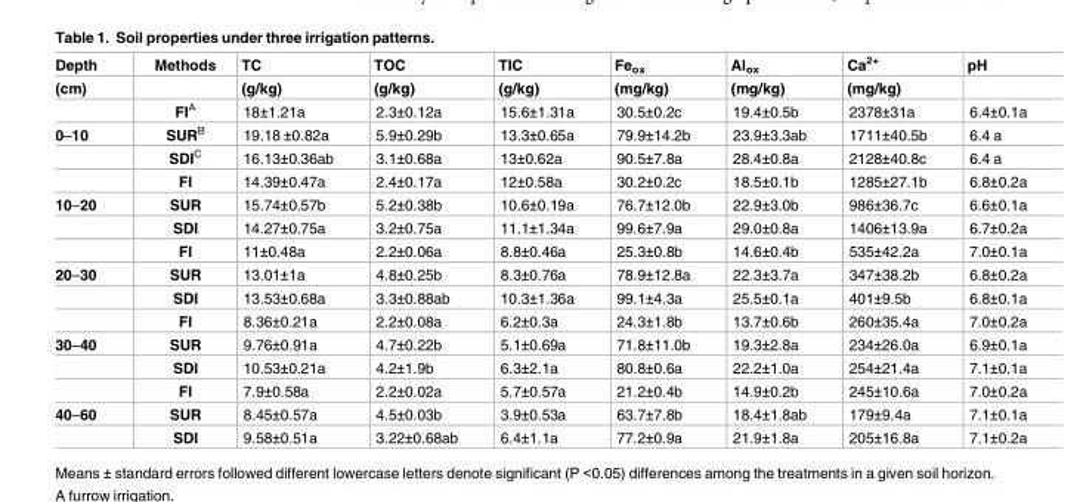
<table><thead><tr><td rowspan="2">Depth (cm)</td><td rowspan="2">Methods</td><td rowspan="2">TC (g/kg)</td><td rowspan="2">TOC (g/kg)</td><td rowspan="2">TIC (g/kg)</td><td rowspan="2">Fe<sub>ox</sub> (mg/kg)</td><td rowspan="2">Al<sub>ox</sub> (mg/kg)</td><td rowspan="2">Ca<sup>2+</sup> (mg/kg)</td><td rowspan="2">pH</td></tr><tr></tr></thead><tbody><tr><td></td><td>FI<sup>A</sup></td><td>18±1.21a</td><td>2.3±0.12a</td><td>15.6±1.31a</td><td>30.5±0.2c</td><td>19.4±0.5b</td><td>2378±31a</td><td>6.4±0.1a</td></tr><tr><td rowspan="3">0–10</td><td>SUR<sup>B</sup></td><td>19.18 ±0.82a</td><td>5.9±0.29b</td><td>13.3±0.65a</td><td>79.9±14.2b</td><td>23.9±3.3ab</td><td>1711±40.5b</td><td>6.4 a</td></tr><tr><td>SDI<sup>C</sup></td><td>16.13±0.36ab</td><td>3.1±0.68a</td><td>13±0.62a</td><td>90.5±7.8a</td><td>28.4±0.8a</td><td>2128±40.8c</td><td>6.4 a</td></tr><tr><td>FI</td><td>14.39±0.47a</td><td>2.4±0.17a</td><td>12±0.58a</td><td>30.2±0.2c</td><td>18.5±0.1b</td><td>1285±27.1b</td><td>6.8±0.2a</td></tr><tr><td rowspan="3">10–20</td><td>SUR</td><td>15.74±0.57b</td><td>5.2±0.38b</td><td>10.6±0.19a</td><td>76.7±12.0b</td><td>22.9±3.0b</td><td>986±36.7c</td><td>6.6±0.1a</td></tr><tr><td>SDI</td><td>14.27±0.75a</td><td>3.2±0.75a</td><td>11.1±1.34a</td><td>99.6±7.9a</td><td>29.0±0.8a</td><td>1406±13.9a</td><td>6.7±0.2a</td></tr><tr><td>FI</td><td>11±0.48a</td><td>2.2±0.06a</td><td>8.8±0.46a</td><td>25.3±0.8b</td><td>14.6±0.4b</td><td>535±42.2a</td><td>7.0±0.1a</td></tr><tr><td rowspan="3">20–30</td><td>SUR</td><td>13.01±1a</td><td>4.8±0.25b</td><td>8.3±0.76a</td><td>78.9±12.8a</td><td>22.3±3.7a</td><td>347±38.2b</td><td>6.8±0.2a</td></tr><tr><td>SDI</td><td>13.53±0.68a</td><td>3.3±0.88ab</td><td>10.3±1.36a</td><td>99.1±4.3a</td><td>25.5±0.1a</td><td>401±9.5b</td><td>6.8±0.1a</td></tr><tr><td>FI</td><td>8.36±0.21a</td><td>2.2±0.08a</td><td>6.2±0.3a</td><td>24.3±1.8b</td><td>13.7±0.6b</td><td>260±35.4a</td><td>7.0±0.2a</td></tr><tr><td rowspan="3">30–40</td><td>SUR</td><td>9.76±0.91a</td><td>4.7±0.22b</td><td>5.1±0.69a</td><td>71.8±11.0b</td><td>19.3±2.8a</td><td>234±26.0a</td><td>6.9±0.1a</td></tr><tr><td>SDI</td><td>10.53±0.21a</td><td>4.2±1.9b</td><td>6.3±2.1a</td><td>80.8±0.6a</td><td>22.2±1.0a</td><td>254±21.4a</td><td>7.1±0.1a</td></tr><tr><td>FI</td><td>7.9±0.58a</td><td>2.2±0.02a</td><td>5.7±0.57a</td><td>21.2±0.4b</td><td>14.9±0.2b</td><td>245±10.6a</td><td>7.0±0.2a</td></tr><tr><td rowspan="2">40–60</td><td>SUR</td><td>8.45±0.57a</td><td>4.5±0.03b</td><td>3.9±0.53a</td><td>63.7±7.8b</td><td>18.4±1.8ab</td><td>179±9.4a</td><td>7.1±0.1a</td></tr><tr><td>SDI</td><td>9.58±0.51a</td><td>3.22±0.68ab</td><td>6.4±1.1a</td><td>77.2±0.9a</td><td>21.9±1.8a</td><td>205±16.8a</td><td>7.1±0.2a</td></tr></tbody></table>